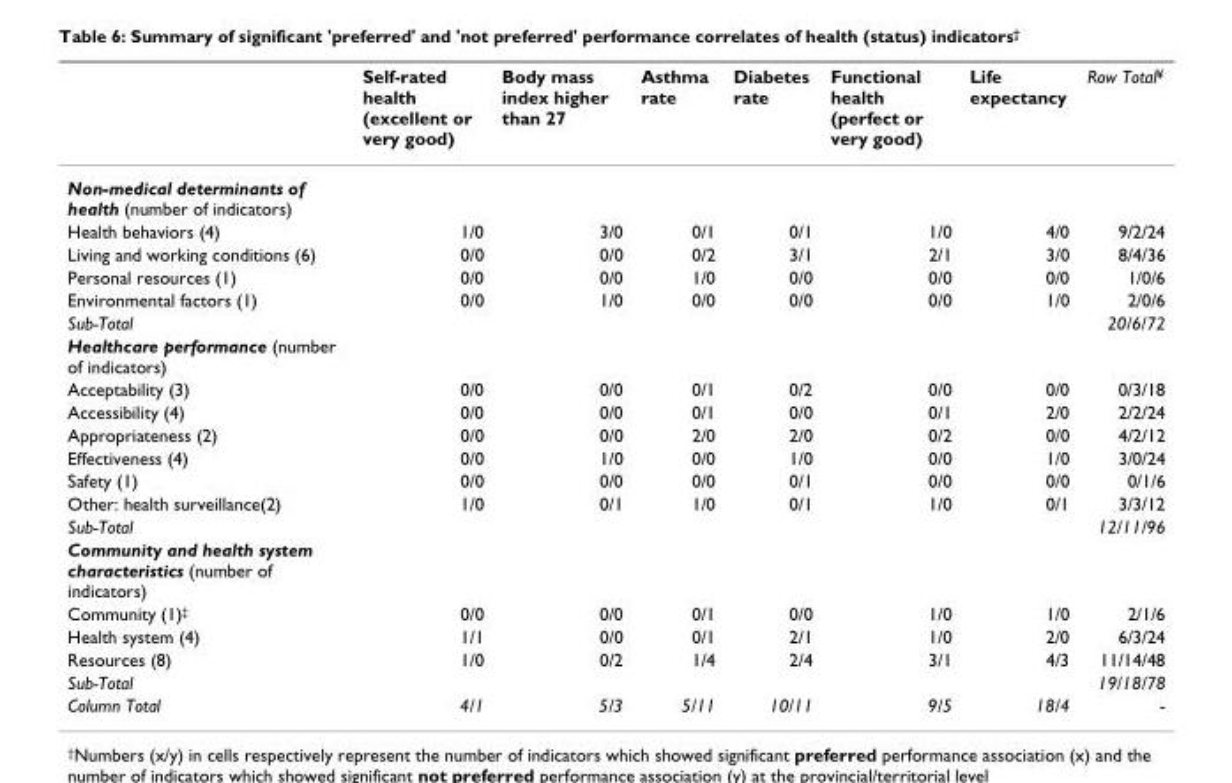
<table><thead><tr><td></td><td>Self-rated health (excellent or very good)</td><td>Body mass index higher than 27</td><td>Asthma rate</td><td>Diabetes rate</td><td>Functional health (perfect or very good)</td><td>Life expectancy</td><td>Row Total<sup>¥</sup></td></tr></thead><tbody><tr><td colspan="8">Non-medical determinants of health (number of indicators)</td></tr><tr><td>Health behaviors (4)</td><td>1/0</td><td>3/0</td><td>0/1</td><td>0/1</td><td>1/0</td><td>4/0</td><td>9/2/24</td></tr><tr><td>Living and working conditions (6)</td><td>0/0</td><td>0/0</td><td>0/2</td><td>3/1</td><td>2/1</td><td>3/0</td><td>8/4/36</td></tr><tr><td>Personal resources (1)</td><td>0/0</td><td>0/0</td><td>1/0</td><td>0/0</td><td>0/0</td><td>0/0</td><td>1/0/6</td></tr><tr><td>Environmental factors (1)</td><td>0/0</td><td>1/0</td><td>0/0</td><td>0/0</td><td>0/0</td><td>1/0</td><td>2/0/6</td></tr><tr><td>Sub-Total</td><td></td><td></td><td></td><td></td><td></td><td></td><td>20/6/72</td></tr><tr><td colspan="8">Healthcare performance (number of indicators)</td></tr><tr><td>Acceptability (3)</td><td>0/0</td><td>0/0</td><td>0/1</td><td>0/2</td><td>0/0</td><td>0/0</td><td>0/3/18</td></tr><tr><td>Accessibility (4)</td><td>0/0</td><td>0/0</td><td>0/1</td><td>0/0</td><td>0/1</td><td>2/0</td><td>2/2/24</td></tr><tr><td>Appropriateness (2)</td><td>0/0</td><td>0/0</td><td>2/0</td><td>2/0</td><td>0/2</td><td>0/0</td><td>4/2/12</td></tr><tr><td>Effectiveness (4)</td><td>0/0</td><td>1/0</td><td>0/0</td><td>1/0</td><td>0/0</td><td>1/0</td><td>3/0/24</td></tr><tr><td>Safety (1)</td><td>0/0</td><td>0/0</td><td>0/0</td><td>0/1</td><td>0/0</td><td>0/0</td><td>0/1/6</td></tr><tr><td>Other: health surveillance(2)</td><td>1/0</td><td>0/1</td><td>1/0</td><td>0/1</td><td>1/0</td><td>0/1</td><td>3/3/12</td></tr><tr><td>Sub-Total</td><td></td><td></td><td></td><td></td><td></td><td></td><td>12/11/96</td></tr><tr><td colspan="8">Community and health system characteristics (number of indicators)</td></tr><tr><td>Community (1)<sup>‡</sup></td><td>0/0</td><td>0/0</td><td>0/1</td><td>0/0</td><td>1/0</td><td>1/0</td><td>2/1/6</td></tr><tr><td>Health system (4)</td><td>1/1</td><td>0/0</td><td>0/1</td><td>2/1</td><td>1/0</td><td>2/0</td><td>6/3/24</td></tr><tr><td>Resources (8)</td><td>1/0</td><td>0/2</td><td>1/4</td><td>2/4</td><td>3/1</td><td>4/3</td><td>11/14/48</td></tr><tr><td>Sub-Total</td><td></td><td></td><td></td><td></td><td></td><td></td><td>19/18/78</td></tr><tr><td>Column Total</td><td>4/1</td><td>5/3</td><td>5/11</td><td>10/11</td><td>9/5</td><td>18/4</td><td>-</td></tr></tbody></table>